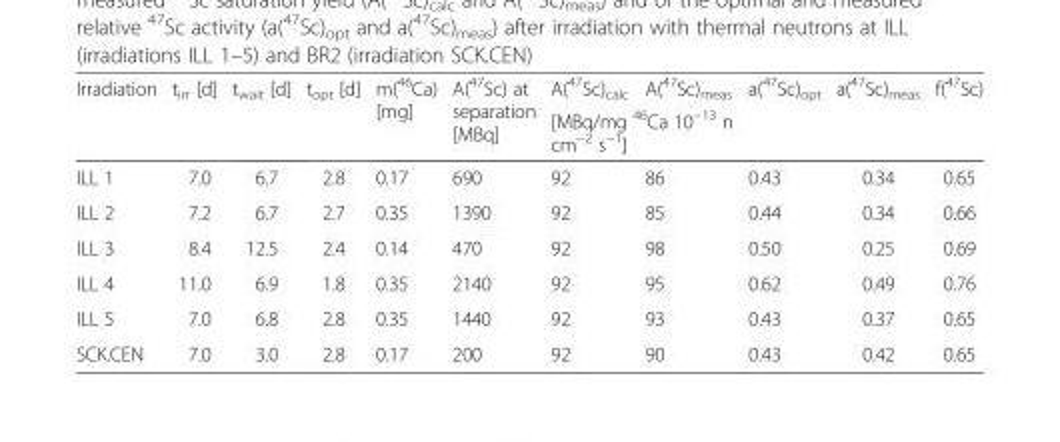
<table><thead><tr><td rowspan="2">Irradiation</td><td rowspan="2">t<sub>irr</sub> [d]</td><td rowspan="2">t<sub>wait</sub> [d]</td><td rowspan="2">t<sub>opt</sub> [d]</td><td rowspan="2">m(<sup>46</sup>Ca) [mg]</td><td rowspan="2">A(<sup>47</sup>Sc) at separation [MBq]</td><td>A(<sup>47</sup>Sc)<sub>calc</sub></td><td>A(<sup>47</sup>Sc)<sub>meas</sub></td><td rowspan="2">a(<sup>47</sup>Sc)<sub>opt</sub></td><td rowspan="2">a(<sup>47</sup>Sc)<sub>meas</sub></td><td rowspan="2">f(<sup>47</sup>Sc)</td></tr><tr><td colspan="2">[MBq/mg <sup>46</sup>Ca 10<sup>−13</sup> n cm<sup>−2</sup> s<sup>−1</sup>]</td></tr></thead><tbody><tr><td>ILL 1</td><td>7.0</td><td>6.7</td><td>2.8</td><td>0.17</td><td>690</td><td>92</td><td>86</td><td>0.43</td><td>0.34</td><td>0.65</td></tr><tr><td>ILL 2</td><td>7.2</td><td>6.7</td><td>2.7</td><td>0.35</td><td>1390</td><td>92</td><td>85</td><td>0.44</td><td>0.34</td><td>0.66</td></tr><tr><td>ILL 3</td><td>8.4</td><td>12.5</td><td>2.4</td><td>0.14</td><td>470</td><td>92</td><td>98</td><td>0.50</td><td>0.25</td><td>0.69</td></tr><tr><td>ILL 4</td><td>11.0</td><td>6.9</td><td>1.8</td><td>0.35</td><td>2140</td><td>92</td><td>95</td><td>0.62</td><td>0.49</td><td>0.76</td></tr><tr><td>ILL 5</td><td>7.0</td><td>6.8</td><td>2.8</td><td>0.35</td><td>1440</td><td>92</td><td>93</td><td>0.43</td><td>0.37</td><td>0.65</td></tr><tr><td>SCK.CEN</td><td>7.0</td><td>3.0</td><td>2.8</td><td>0.17</td><td>200</td><td>92</td><td>90</td><td>0.43</td><td>0.42</td><td>0.65</td></tr></tbody></table>